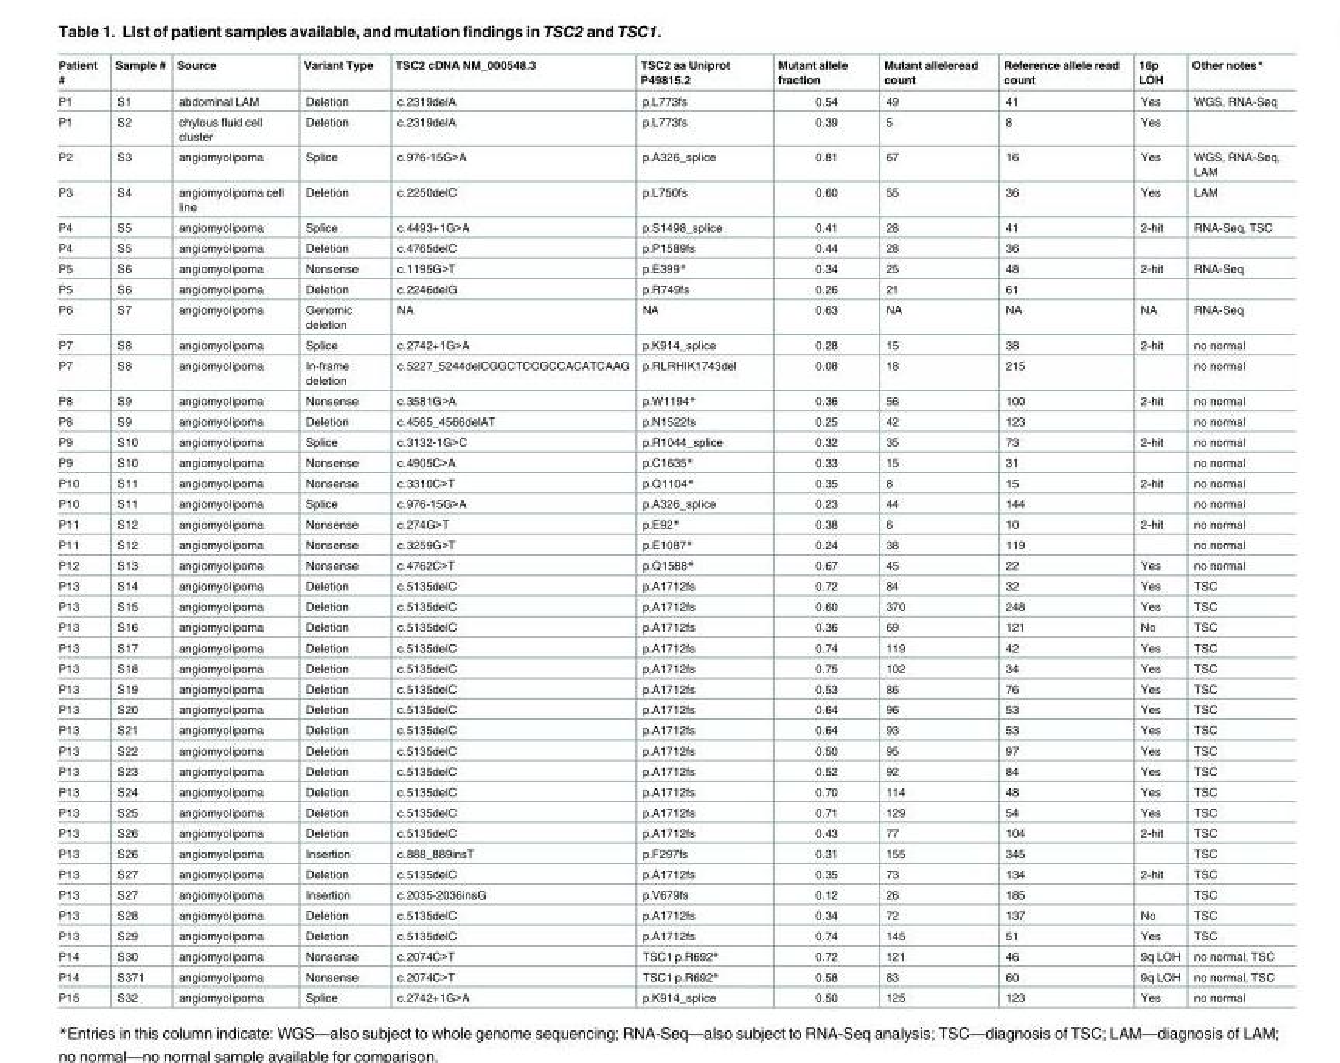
<table><thead><tr><td>Patient #</td><td>Sample #</td><td>Source</td><td>Variant Type</td><td>TSC2 cDNA NM_000548.3</td><td>TSC2 aa Uniprot P49815.2</td><td>Mutant allele fraction</td><td>Mutant alleleread count</td><td>Reference allele read count</td><td>16p LOH</td><td>Other notes*</td></tr></thead><tbody><tr><td>P1</td><td>S1</td><td>abdominal LAM</td><td>Deletion</td><td>c.2319delA</td><td>p.L773fs</td><td>0.54</td><td>49</td><td>41</td><td>Yes</td><td>WGS, RNA-Seq</td></tr><tr><td>P1</td><td>S2</td><td>chylous fluid cell cluster</td><td>Deletion</td><td>c.2319delA</td><td>p.L773fs</td><td>0.39</td><td>5</td><td>8</td><td>Yes</td><td></td></tr><tr><td>P2</td><td>S3</td><td>angiomyolipoma</td><td>Splice</td><td>c.976-15G&gt;A</td><td>p.A326_splice</td><td>0.81</td><td>67</td><td>16</td><td>Yes</td><td>WGS, RNA-Seq, LAM</td></tr><tr><td>P3</td><td>S4</td><td>angiomyolipoma cell line</td><td>Deletion</td><td>c.2250delC</td><td>p.L750fs</td><td>0.60</td><td>55</td><td>36</td><td>Yes</td><td>LAM</td></tr><tr><td>P4</td><td>S5</td><td>angiomyolipoma</td><td>Splice</td><td>c.4493+1G&gt;A</td><td>p.S1498_splice</td><td>0.41</td><td>28</td><td>41</td><td>2-hit</td><td>RNA-Seq, TSC</td></tr><tr><td>P4</td><td>S5</td><td>angiomyolipoma</td><td>Deletion</td><td>c.4765delC</td><td>p.P1589fs</td><td>0.44</td><td>28</td><td>36</td><td></td><td></td></tr><tr><td>P5</td><td>S6</td><td>angiomyolipoma</td><td>Nonsense</td><td>c.1195G&gt;T</td><td>p.E399*</td><td>0.34</td><td>25</td><td>48</td><td>2-hit</td><td>RNA-Seq</td></tr><tr><td>P5</td><td>S6</td><td>angiomyolipoma</td><td>Deletion</td><td>c.2246delG</td><td>p.R749fs</td><td>0.26</td><td>21</td><td>61</td><td></td><td></td></tr><tr><td>P6</td><td>S7</td><td>angiomyolipoma</td><td>Genomic deletion</td><td>NA</td><td>NA</td><td>0.63</td><td>NA</td><td>NA</td><td>NA</td><td>RNA-Seq</td></tr><tr><td>P7</td><td>S8</td><td>angiomyolipoma</td><td>Splice</td><td>c.2742+1G&gt;A</td><td>p.K914_splice</td><td>0.28</td><td>15</td><td>38</td><td>2-hit</td><td>no normal</td></tr><tr><td>P7</td><td>S8</td><td>angiomyolipoma</td><td>In-frame deletion</td><td>c.5227_5244delCGGCTCCGCCACATCAAG</td><td>p.RLRHIK1743del</td><td>0.08</td><td>18</td><td>215</td><td></td><td>no normal</td></tr><tr><td>P8</td><td>S9</td><td>angiomyolipoma</td><td>Nonsense</td><td>c.3581G&gt;A</td><td>p.W1194*</td><td>0.36</td><td>56</td><td>100</td><td>2-hit</td><td>no normal</td></tr><tr><td>P8</td><td>S9</td><td>angiomyolipoma</td><td>Deletion</td><td>c.4565_4566delAT</td><td>p.N1522fs</td><td>0.25</td><td>42</td><td>123</td><td></td><td>no normal</td></tr><tr><td>P9</td><td>S10</td><td>angiomyolipoma</td><td>Splice</td><td>c.3132-1G&gt;C</td><td>p.R1044_splice</td><td>0.32</td><td>35</td><td>73</td><td>2-hit</td><td>no normal</td></tr><tr><td>P9</td><td>S10</td><td>angiomyolipoma</td><td>Nonsense</td><td>c.4905C&gt;A</td><td>p.C1635*</td><td>0.33</td><td>15</td><td>31</td><td></td><td>no normal</td></tr><tr><td>P10</td><td>S11</td><td>angiomyolipoma</td><td>Nonsense</td><td>c.3310C&gt;T</td><td>p.Q1104*</td><td>0.35</td><td>8</td><td>15</td><td>2-hit</td><td>no normal</td></tr><tr><td>P10</td><td>S11</td><td>angiomyolipoma</td><td>Splice</td><td>c.976-15G&gt;A</td><td>p.A326_splice</td><td>0.23</td><td>44</td><td>144</td><td></td><td>no normal</td></tr><tr><td>P11</td><td>S12</td><td>angiomyolipoma</td><td>Nonsense</td><td>c.274G&gt;T</td><td>p.E92*</td><td>0.38</td><td>6</td><td>10</td><td>2-hit</td><td>no normal</td></tr><tr><td>P11</td><td>S12</td><td>angiomyolipoma</td><td>Nonsense</td><td>c.3259G&gt;T</td><td>p.E1087*</td><td>0.24</td><td>38</td><td>119</td><td></td><td>no normal</td></tr><tr><td>P12</td><td>S13</td><td>angiomyolipoma</td><td>Nonsense</td><td>c.4762C&gt;T</td><td>p.Q1588*</td><td>0.67</td><td>45</td><td>22</td><td>Yes</td><td>no normal</td></tr><tr><td>P13</td><td>S14</td><td>angiomyolipoma</td><td>Deletion</td><td>c.5135delC</td><td>p.A1712fs</td><td>0.72</td><td>84</td><td>32</td><td>Yes</td><td>TSC</td></tr><tr><td>P13</td><td>S15</td><td>angiomyolipoma</td><td>Deletion</td><td>c.5135delC</td><td>p.A1712fs</td><td>0.60</td><td>370</td><td>248</td><td>Yes</td><td>TSC</td></tr><tr><td>P13</td><td>S16</td><td>angiomyolipoma</td><td>Deletion</td><td>c.5135delC</td><td>p.A1712fs</td><td>0.36</td><td>69</td><td>121</td><td>No</td><td>TSC</td></tr><tr><td>P13</td><td>S17</td><td>angiomyolipoma</td><td>Deletion</td><td>c.5135delC</td><td>p.A1712fs</td><td>0.74</td><td>119</td><td>42</td><td>Yes</td><td>TSC</td></tr><tr><td>P13</td><td>S18</td><td>angiomyolipoma</td><td>Deletion</td><td>c.5135delC</td><td>p.A1712fs</td><td>0.75</td><td>102</td><td>34</td><td>Yes</td><td>TSC</td></tr><tr><td>P13</td><td>S19</td><td>angiomyolipoma</td><td>Deletion</td><td>c.5135delC</td><td>p.A1712fs</td><td>0.53</td><td>86</td><td>76</td><td>Yes</td><td>TSC</td></tr><tr><td>P13</td><td>S20</td><td>angiomyolipoma</td><td>Deletion</td><td>c.5135delC</td><td>p.A1712fs</td><td>0.64</td><td>96</td><td>53</td><td>Yes</td><td>TSC</td></tr><tr><td>P13</td><td>S21</td><td>angiomyolipoma</td><td>Deletion</td><td>c.5135delC</td><td>p.A1712fs</td><td>0.64</td><td>93</td><td>53</td><td>Yes</td><td>TSC</td></tr><tr><td>P13</td><td>S22</td><td>angiomyolipoma</td><td>Deletion</td><td>c.5135delC</td><td>p.A1712fs</td><td>0.50</td><td>95</td><td>97</td><td>Yes</td><td>TSC</td></tr><tr><td>P13</td><td>S23</td><td>angiomyolipoma</td><td>Deletion</td><td>c.5135delC</td><td>p.A1712fs</td><td>0.52</td><td>92</td><td>84</td><td>Yes</td><td>TSC</td></tr><tr><td>P13</td><td>S24</td><td>angiomyolipoma</td><td>Deletion</td><td>c.5135delC</td><td>p.A1712fs</td><td>0.70</td><td>114</td><td>48</td><td>Yes</td><td>TSC</td></tr><tr><td>P13</td><td>S25</td><td>angiomyolipoma</td><td>Deletion</td><td>c.5135delC</td><td>p.A1712fs</td><td>0.71</td><td>129</td><td>54</td><td>Yes</td><td>TSC</td></tr><tr><td>P13</td><td>S26</td><td>angiomyolipoma</td><td>Deletion</td><td>c.5135delC</td><td>p.A1712fs</td><td>0.43</td><td>77</td><td>104</td><td>2-hit</td><td>TSC</td></tr><tr><td>P13</td><td>S26</td><td>angiomyolipoma</td><td>Insertion</td><td>c.888_889insT</td><td>p.F297fs</td><td>0.31</td><td>155</td><td>345</td><td></td><td>TSC</td></tr><tr><td>P13</td><td>S27</td><td>angiomyolipoma</td><td>Deletion</td><td>c.5135delC</td><td>p.A1712fs</td><td>0.35</td><td>73</td><td>134</td><td>2-hit</td><td>TSC</td></tr><tr><td>P13</td><td>S27</td><td>angiomyolipoma</td><td>Insertion</td><td>c.2035-2036insG</td><td>p.V679fs</td><td>0.12</td><td>26</td><td>185</td><td></td><td>TSC</td></tr><tr><td>P13</td><td>S28</td><td>angiomyolipoma</td><td>Deletion</td><td>c.5135delC</td><td>p.A1712fs</td><td>0.34</td><td>72</td><td>137</td><td>No</td><td>TSC</td></tr><tr><td>P13</td><td>S29</td><td>angiomyolipoma</td><td>Deletion</td><td>c.5135delC</td><td>p.A1712fs</td><td>0.74</td><td>145</td><td>51</td><td>Yes</td><td>TSC</td></tr><tr><td>P14</td><td>S30</td><td>angiomyolipoma</td><td>Nonsense</td><td>c.2074C&gt;T</td><td>TSC1 p.R692*</td><td>0.72</td><td>121</td><td>46</td><td>9q LOH</td><td>no normal, TSC</td></tr><tr><td>P14</td><td>S371</td><td>angiomyolipoma</td><td>Nonsense</td><td>c.2074C&gt;T</td><td>TSC1 p.R692*</td><td>0.58</td><td>83</td><td>60</td><td>9q LOH</td><td>no normal, TSC</td></tr><tr><td>P15</td><td>S32</td><td>angiomyolipoma</td><td>Splice</td><td>c.2742+1G&gt;A</td><td>p.K914_splice</td><td>0.50</td><td>125</td><td>123</td><td>Yes</td><td>no normal</td></tr></tbody></table>